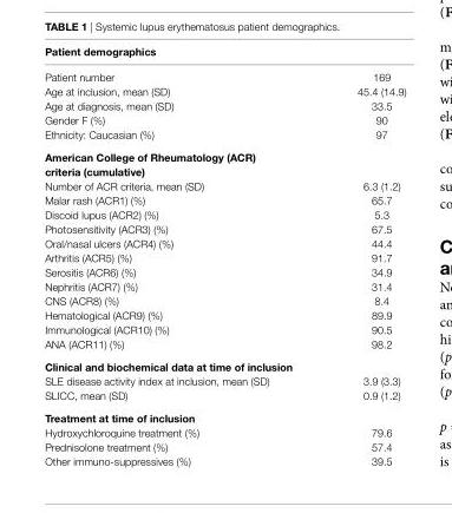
<table><thead><tr><td colspan="2">Patient demographics</td></tr><tr><td>Patient number</td><td>169</td></tr></thead><tbody><tr><td>Age at inclusion, mean (SD)</td><td>45.4 (14.9)</td></tr><tr><td>Age at diagnosis, mean (SD)</td><td>33.5</td></tr><tr><td>Gender F (%)</td><td>90</td></tr><tr><td>Ethnicity: Caucasian (%)</td><td>97</td></tr><tr><td colspan="2">american college of rheumatology (acr) criteria (cumulative)</td></tr><tr><td>Number of ACR criteria, mean (SD)</td><td>6.3 (1.2)</td></tr><tr><td>Malar rash (ACR1) (%)</td><td>65.7</td></tr><tr><td>Discoid lupus (ACR2) (%)</td><td>5.3</td></tr><tr><td>Photosensitivity (ACR3) (%)</td><td>67.5</td></tr><tr><td>Oral/nasal ulcers (ACR4) (%)</td><td>44.4</td></tr><tr><td>Arthritis (ACR5) (%)</td><td>91.7</td></tr><tr><td>Serositis (ACR6) (%)</td><td>34.9</td></tr><tr><td>Nephritis (ACR7) (%)</td><td>31.4</td></tr><tr><td>CNS (ACR8) (%)</td><td>8.4</td></tr><tr><td>Hematological (ACR9) (%)</td><td>89.9</td></tr><tr><td>Immunological (ACR10) (%)</td><td>90.5</td></tr><tr><td>ANA (ACR11) (%)</td><td>98.2</td></tr><tr><td colspan="2">clinical and biochemical data at time of inclusion</td></tr><tr><td>SLE disease activity index at inclusion, mean (SD)</td><td>3.9 (3.3)</td></tr><tr><td>SLICC, mean (SD)</td><td>0.9 (1.2)</td></tr><tr><td colspan="2">Treatment at time of inclusion</td></tr><tr><td>Hydroxychloroquine treatment (%)</td><td>79.6</td></tr><tr><td>Prednisolone treatment (%)</td><td>57.4</td></tr><tr><td>Other immuno-suppressives (%)</td><td>39.5</td></tr></tbody></table>